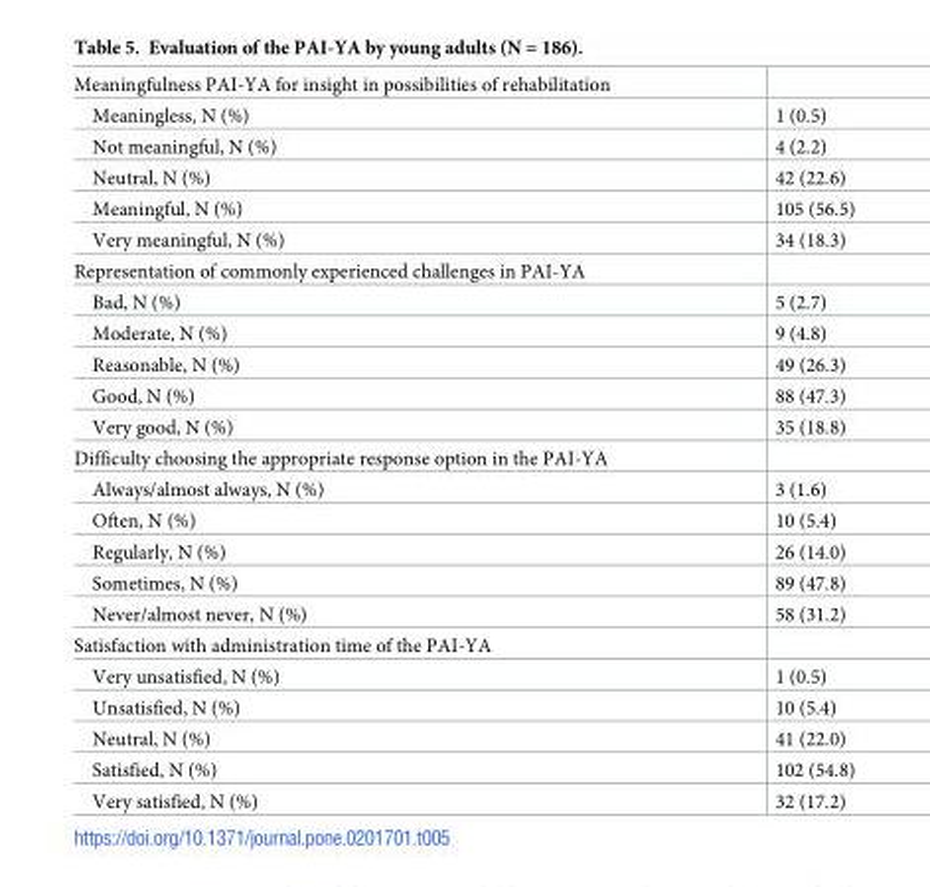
<table><tbody><tr><td colspan="2">Meaningfulness PAI-YA for insight in possibilities of rehabilitation</td></tr><tr><td>Meaningless, N (%)</td><td>1 (0.5)</td></tr><tr><td>Not meaningful, N (%)</td><td>4 (2.2)</td></tr><tr><td>Neutral, N (%)</td><td>42 (22.6)</td></tr><tr><td>Meaningful, N (%)</td><td>105 (56.5)</td></tr><tr><td>Very meaningful, N (%)</td><td>34 (18.3)</td></tr><tr><td colspan="2">Representation of commonly experienced challenges in PAI-YA</td></tr><tr><td>Bad, N (%)</td><td>5 (2.7)</td></tr><tr><td>Moderate, N (%)</td><td>9 (4.8)</td></tr><tr><td>Reasonable, N (%)</td><td>49 (26.3)</td></tr><tr><td>Good, N (%)</td><td>88 (47.3)</td></tr><tr><td>Very good, N (%)</td><td>35 (18.8)</td></tr><tr><td colspan="2">Difficulty choosing the appropriate response option in the PAI-YA</td></tr><tr><td>Always/almost always, N (%)</td><td>3 (1.6)</td></tr><tr><td>Often, N (%)</td><td>10 (5.4)</td></tr><tr><td>Regularly, N (%)</td><td>26 (14.0)</td></tr><tr><td>Sometimes, N (%)</td><td>89 (47.8)</td></tr><tr><td>Never/almost never, N (%)</td><td>58 (31.2)</td></tr><tr><td colspan="2">Satisfaction with administration time of the PAI-YA</td></tr><tr><td>Very unsatisfied, N (%)</td><td>1 (0.5)</td></tr><tr><td>Unsatisfied, N (%)</td><td>10 (5.4)</td></tr><tr><td>Neutral, N (%)</td><td>41 (22.0)</td></tr><tr><td>Satisfied, N (%)</td><td>102 (54.8)</td></tr><tr><td>Very satisfied, N (%)</td><td>32 (17.2)</td></tr></tbody></table>